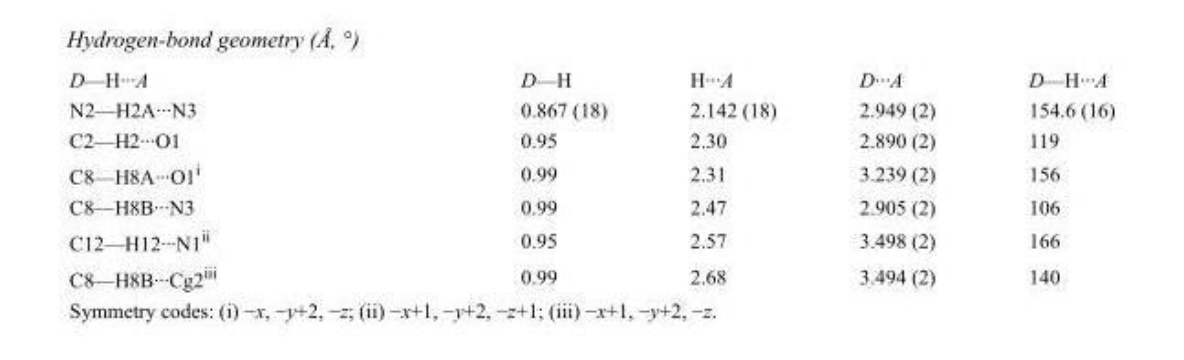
<table><tbody><tr><td>D—H···A</td><td>D—H</td><td>H···A</td><td>D···A</td><td>D—H···A</td></tr><tr><td>N2—H2A···N3</td><td>0.867 (18)</td><td>2.142 (18)</td><td>2.949 (2)</td><td>154.6 (16)</td></tr><tr><td>C2—H2···O1</td><td>0.95</td><td>2.30</td><td>2.890 (2)</td><td>119</td></tr><tr><td>C8—H8A···O1<sup>i</sup></td><td>0.99</td><td>2.31</td><td>3.239 (2)</td><td>156</td></tr><tr><td>C8—H8B···N3</td><td>0.99</td><td>2.47</td><td>2.905 (2)</td><td>106</td></tr><tr><td>C12—H12···N1<sup>ii</sup></td><td>0.95</td><td>2.57</td><td>3.498 (2)</td><td>166</td></tr><tr><td>C8—H8B···Cg2<sup>iii</sup></td><td>0.99</td><td>2.68</td><td>3.494 (2)</td><td>140</td></tr></tbody></table>